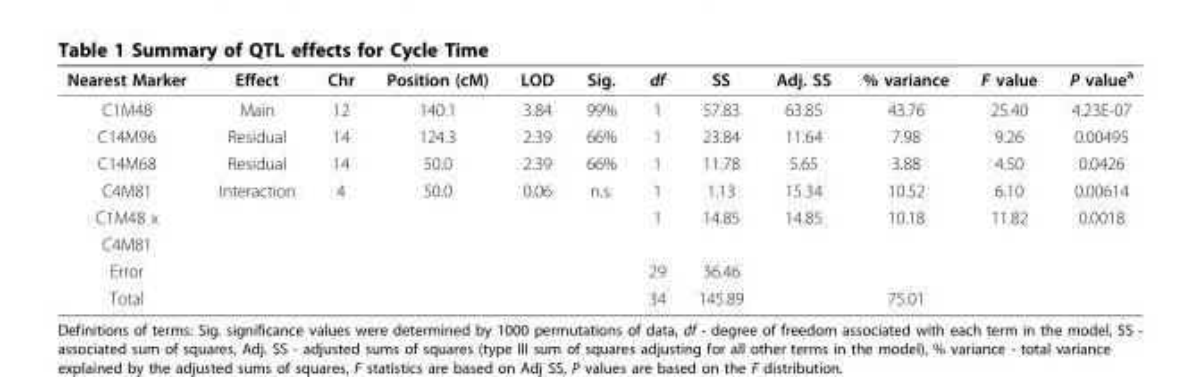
<table><thead><tr><td>Nearest Marker</td><td>Effect</td><td>Chr</td><td>Position (cM)</td><td>LOD</td><td>Sig.</td><td>df</td><td>SS</td><td>Adj. SS</td><td>% variance</td><td>F value</td><td>P value<sup>a</sup></td></tr></thead><tbody><tr><td>C1M48</td><td>Main</td><td>12</td><td>140.1</td><td>3.84</td><td>99%</td><td>1</td><td>57.83</td><td>63.85</td><td>43.76</td><td>25.40</td><td>4.23E-07</td></tr><tr><td>C14M96</td><td>Residual</td><td>14</td><td>124.3</td><td>2.39</td><td>66%</td><td>1</td><td>23.84</td><td>11.64</td><td>7.98</td><td>9.26</td><td>0.00495</td></tr><tr><td>C14M68</td><td>Residual</td><td>14</td><td>50.0</td><td>2.39</td><td>66%</td><td>1</td><td>11.78</td><td>5.65</td><td>3.88</td><td>4.50</td><td>0.0426</td></tr><tr><td>C4M81</td><td>Interaction</td><td>4</td><td>50.0</td><td>0.06</td><td>n.s.</td><td>1</td><td>1.13</td><td>15.34</td><td>10.52</td><td>6.10</td><td>0.00614</td></tr><tr><td>C1M48 x</td><td></td><td></td><td></td><td></td><td></td><td>1</td><td>14.85</td><td>14.85</td><td>10.18</td><td>11.82</td><td>0.0018</td></tr><tr><td colspan="12">C4M81</td></tr><tr><td>Error</td><td></td><td></td><td></td><td></td><td></td><td>29</td><td>36.46</td><td></td><td></td><td></td><td></td></tr><tr><td>Total</td><td></td><td></td><td></td><td></td><td></td><td>34</td><td>145.89</td><td></td><td>75.01</td><td></td><td></td></tr></tbody></table>